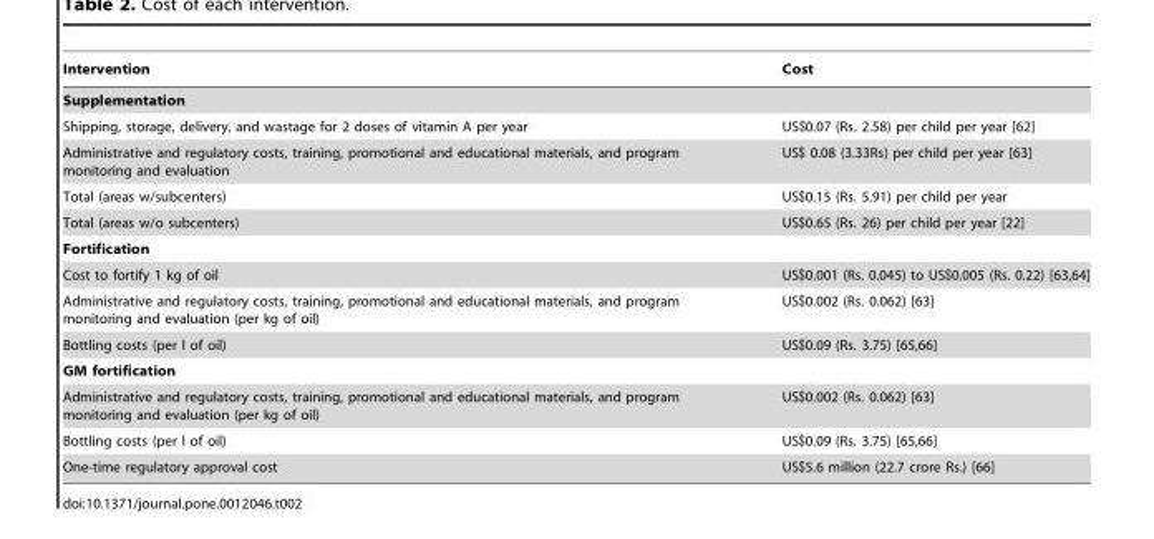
<table><thead><tr><td>Intervention</td><td>Cost</td></tr></thead><tbody><tr><td colspan="2">Supplementation</td></tr><tr><td>Shipping, storage, delivery, and wastage for 2 doses of vitamin A per year</td><td>US$0.07 (Rs. 2.58) per child per year [62]</td></tr><tr><td>Administrative and regulatory costs, training, promotional and educational materials, and program monitoring and evaluation</td><td>US$ 0.08 (3.33Rs) per child per year [63]</td></tr><tr><td>Total (areas w/subcenters)</td><td>US$0.15 (Rs. 5.91) per child per year</td></tr><tr><td>Total (areas w/o subcenters)</td><td>US$0.65 (Rs. 26) per child per year [22]</td></tr><tr><td colspan="2">Fortification</td></tr><tr><td>Cost to fortify 1 kg of oil</td><td>US$0.001 (Rs. 0.045) to US$0.005 (Rs. 0.22) [63,64]</td></tr><tr><td>Administrative and regulatory costs, training, promotional and educational materials, and program monitoring and evaluation (per kg of oil)</td><td>US$0.002 (Rs. 0.062) [63]</td></tr><tr><td>Bottling costs (per l of oil)</td><td>US$0.09 (Rs. 3.75) [65,66]</td></tr><tr><td colspan="2">GM fortification</td></tr><tr><td>Administrative and regulatory costs, training, promotional and educational materials, and program monitoring and evaluation (per kg of oil)</td><td>US$0.002 (Rs. 0.062) [63]</td></tr><tr><td>Bottling costs (per l of oil)</td><td>US$0.09 (Rs. 3.75) [65,66]</td></tr><tr><td>One-time regulatory approval cost</td><td>US$5.6 million (22.7 crore Rs.) [66]</td></tr></tbody></table>